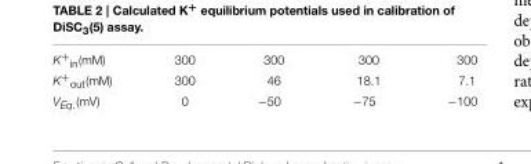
<table><tbody><tr><td>K<sup>+</sup><sub>in</sub>(mM)</td><td>300</td><td>300</td><td>300</td><td>300</td></tr><tr><td>K<sup>+</sup><sub>out</sub>(mM)</td><td>300</td><td>46</td><td>18.1</td><td>7.1</td></tr><tr><td>V<sub>Eq.</sub>(mV)</td><td>0</td><td>−50</td><td>−75</td><td>−100</td></tr></tbody></table>